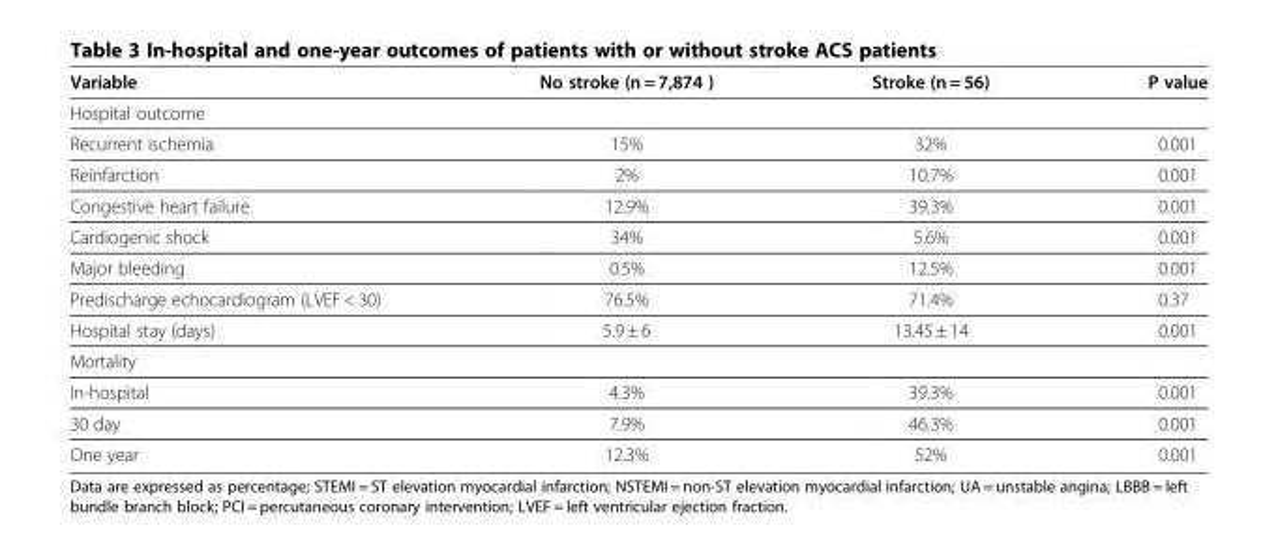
<table><thead><tr><td>Variable</td><td>No stroke (n = 7,874 )</td><td>Stroke (n = 56)</td><td>P value</td></tr></thead><tbody><tr><td colspan="4">Hospital outcome</td></tr><tr><td>Recurrent ischemia</td><td>15%</td><td>32%</td><td>0.001</td></tr><tr><td>Reinfarction</td><td>2%</td><td>10.7%</td><td>0.001</td></tr><tr><td>Congestive heart failure</td><td>12.9%</td><td>39.3%</td><td>0.001</td></tr><tr><td>Cardiogenic shock</td><td>34%</td><td>5.6%</td><td>0.001</td></tr><tr><td>Major bleeding</td><td>0.5%</td><td>12.5%</td><td>0.001</td></tr><tr><td>Predischarge echocardiogram (LVEF &lt; 30)</td><td>76.5%</td><td>71.4%</td><td>0.37</td></tr><tr><td>Hospital stay (days)</td><td>5.9 ± 6</td><td>13.45 ± 14</td><td>0.001</td></tr><tr><td colspan="4">Mortality</td></tr><tr><td>In-hospital</td><td>4.3%</td><td>39.3%</td><td>0.001</td></tr><tr><td>30 day</td><td>7.9%</td><td>46.3%</td><td>0.001</td></tr><tr><td>One year</td><td>12.3%</td><td>52%</td><td>0.001</td></tr></tbody></table>